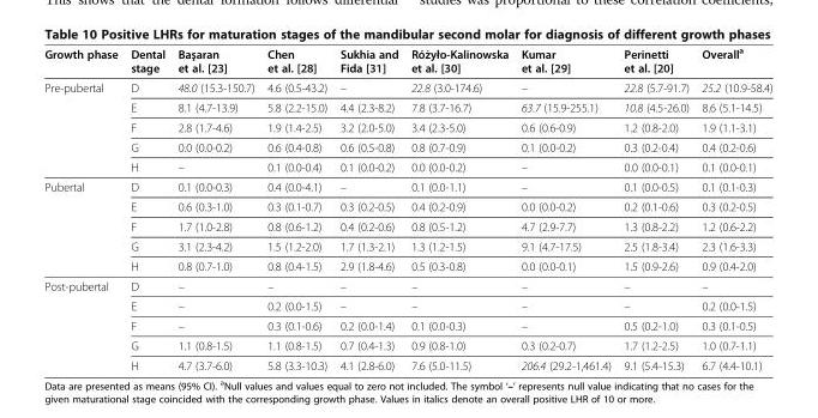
<table><thead><tr><td>Growth phase</td><td>Dental stage</td><td>Başaran et al. [23]</td><td>Chen et al. [28]</td><td>Sukhia and Fida [31]</td><td>Różyło-Kalinowska et al. [30]</td><td>Kumar et al. [29]</td><td>Perinetti et al. [20]</td><td>Overall<sup>a</sup></td></tr></thead><tbody><tr><td rowspan="5">Pre-pubertal</td><td>D</td><td>48.0 (15.3-150.7)</td><td>4.6 (0.5-43.2)</td><td>–</td><td>22.8 (3.0-174.6)</td><td>–</td><td>22.8 (5.7-91.7)</td><td>25.2 (10.9-58.4)</td></tr><tr><td>E</td><td>8.1 (4.7-13.9)</td><td>5.8 (2.2-15.0)</td><td>4.4 (2.3-8.2)</td><td>7.8 (3.7-16.7)</td><td>63.7 (15.9-255.1)</td><td>10.8 (4.5-26.0)</td><td>8.6 (5.1-14.5)</td></tr><tr><td>F</td><td>2.8 (1.7-4.6)</td><td>1.9 (1.4-2.5)</td><td>3.2 (2.0-5.0)</td><td>3.4 (2.3-5.0)</td><td>0.6 (0.6-0.9)</td><td>1.2 (0.8-2.0)</td><td>1.9 (1.1-3.1)</td></tr><tr><td>G</td><td>0.0 (0.0-0.2)</td><td>0.6 (0.4-0.8)</td><td>0.6 (0.5-0.8)</td><td>0.8 (0.7-0.9)</td><td>0.1 (0.0-0.2)</td><td>0.3 (0.2-0.4)</td><td>0.4 (0.2-0.6)</td></tr><tr><td>H</td><td>–</td><td>0.1 (0.0-0.4)</td><td>0.1 (0.0-0.2)</td><td>0.0 (0.0-0.2)</td><td>–</td><td>0.0 (0.0-0.1)</td><td>0.1 (0.0-0.1)</td></tr><tr><td rowspan="5">Pubertal</td><td>D</td><td>0.1 (0.0-0.3)</td><td>0.4 (0.0-4.1)</td><td>–</td><td>0.1 (0.0-1.1)</td><td>–</td><td>0.1 (0.0-0.5)</td><td>0.1 (0.1-0.3)</td></tr><tr><td>E</td><td>0.6 (0.3-1.0)</td><td>0.3 (0.1-0.7)</td><td>0.3 (0.2-0.5)</td><td>0.4 (0.2-0.9)</td><td>0.0 (0.0-0.2)</td><td>0.2 (0.1-0.6)</td><td>0.3 (0.2-0.5)</td></tr><tr><td>F</td><td>1.7 (1.0-2.8)</td><td>0.8 (0.6-1.2)</td><td>0.4 (0.2-0.6)</td><td>0.8 (0.5-1.2)</td><td>4.7 (2.9-7.7)</td><td>1.3 (0.8-2.2)</td><td>1.2 (0.6-2.2)</td></tr><tr><td>G</td><td>3.1 (2.3-4.2)</td><td>1.5 (1.2-2.0)</td><td>1.7 (1.3-2.1)</td><td>1.3 (1.2-1.5)</td><td>9.1 (4.7-17.5)</td><td>2.5 (1.8-3.4)</td><td>2.3 (1.6-3.3)</td></tr><tr><td>H</td><td>0.8 (0.7-1.0)</td><td>0.8 (0.4-1.5)</td><td>2.9 (1.8-4.6)</td><td>0.5 (0.3-0.8)</td><td>0.0 (0.0-0.1)</td><td>1.5 (0.9-2.6)</td><td>0.9 (0.4-2.0)</td></tr><tr><td rowspan="5">Post-pubertal</td><td>D</td><td>–</td><td>–</td><td>–</td><td>–</td><td>–</td><td>–</td><td>–</td></tr><tr><td>E</td><td>–</td><td>0.2 (0.0-1.5)</td><td>–</td><td>–</td><td>–</td><td>–</td><td>0.2 (0.0-1.5)</td></tr><tr><td>F</td><td>–</td><td>0.3 (0.1-0.6)</td><td>0.2 (0.0-1.4)</td><td>0.1 (0.0-0.3)</td><td>–</td><td>0.5 (0.2-1.0)</td><td>0.3 (0.1-0.5)</td></tr><tr><td>G</td><td>1.1 (0.8-1.5)</td><td>1.1 (0.8-1.5)</td><td>0.7 (0.4-1.3)</td><td>0.9 (0.8-1.0)</td><td>0.3 (0.2-0.7)</td><td>1.7 (1.2-2.5)</td><td>1.0 (0.7-1.1)</td></tr><tr><td>H</td><td>4.7 (3.7-6.0)</td><td>5.8 (3.3-10.3)</td><td>4.1 (2.8-6.0)</td><td>7.6 (5.0-11.5)</td><td>206.4 (29.2-1,461.4)</td><td>9.1 (5.4-15.3)</td><td>6.7 (4.4-10.1)</td></tr></tbody></table>